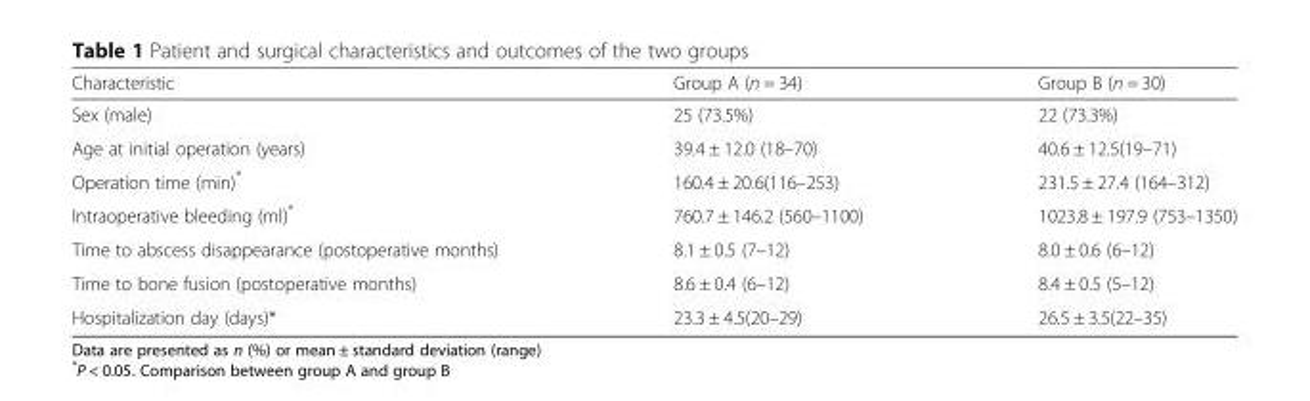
<table><thead><tr><td>Characteristic</td><td>Group A (n = 34)</td><td>Group B (n = 30)</td></tr></thead><tbody><tr><td>Sex (male)</td><td>25 (73.5%)</td><td>22 (73.3%)</td></tr><tr><td>Age at initial operation (years)</td><td>39.4 ± 12.0 (18–70)</td><td>40.6 ± 12.5(19–71)</td></tr><tr><td>Operation time (min)*</td><td>160.4 ± 20.6(116–253)</td><td>231.5 ± 27.4 (164–312)</td></tr><tr><td>Intraoperative bleeding (ml)*</td><td>760.7 ± 146.2 (560–1100)</td><td>1023.8 ± 197.9 (753–1350)</td></tr><tr><td>Time to abscess disappearance (postoperative months)</td><td>8.1 ± 0.5 (7–12)</td><td>8.0 ± 0.6 (6–12)</td></tr><tr><td>Time to bone fusion (postoperative months)</td><td>8.6 ± 0.4 (6–12)</td><td>8.4 ± 0.5 (5–12)</td></tr><tr><td>Hospitalization day (days)*</td><td>23.3 ± 4.5(20–29)</td><td>26.5 ± 3.5(22–35)</td></tr></tbody></table>